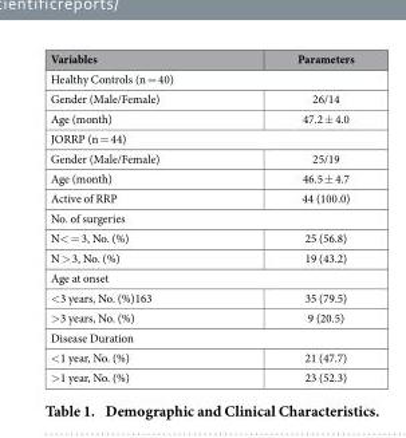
<table><thead><tr><td>Variables</td><td>Parameters</td></tr></thead><tbody><tr><td colspan="2">Healthy Controls (n = 40)</td></tr><tr><td>Gender (Male/Female)</td><td>26/14</td></tr><tr><td>Age (month)</td><td>47.2 ± 4.0</td></tr><tr><td colspan="2">JORRP (n = 44)</td></tr><tr><td>Gender (Male/Female)</td><td>25/19</td></tr><tr><td>Age (month)</td><td>46.5 ± 4.7</td></tr><tr><td>Active of RRP</td><td>44 (100.0)</td></tr><tr><td colspan="2">No. of surgeries</td></tr><tr><td>N&lt; = 3, No. (%)</td><td>25 (56.8)</td></tr><tr><td>N &gt; 3, No. (%)</td><td>19 (43.2)</td></tr><tr><td colspan="2">Age at onset</td></tr><tr><td>&lt; 3 years, No. (%)163</td><td>35 (79.5)</td></tr><tr><td>&gt; 3 years, No. (%)</td><td>9 (20.5)</td></tr><tr><td colspan="2">Disease Duration</td></tr><tr><td>&lt; 1 year, No. (%)</td><td>21 (47.7)</td></tr><tr><td>&gt; 1 year, No. (%)</td><td>23 (52.3)</td></tr></tbody></table>